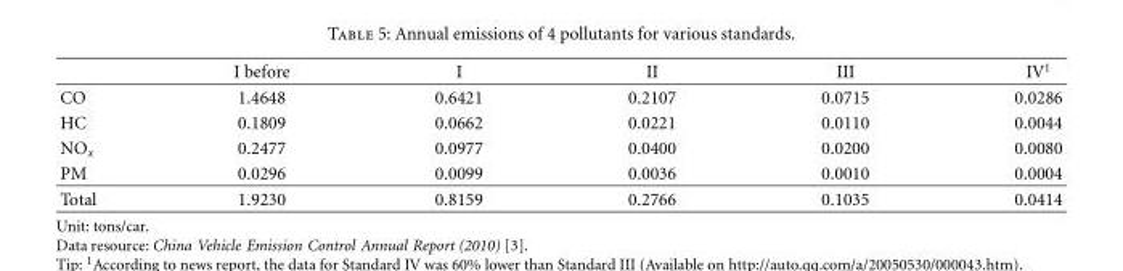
<table><thead><tr><td></td><td>I before</td><td>I</td><td>II</td><td>III</td><td>IV<sup>1</sup></td></tr></thead><tbody><tr><td>CO</td><td>1.4648</td><td>0.6421</td><td>0.2107</td><td>0.0715</td><td>0.0286</td></tr><tr><td>HC</td><td>0.1809</td><td>0.0662</td><td>0.0221</td><td>0.0110</td><td>0.0044</td></tr><tr><td>NO<sub>x</sub></td><td>0.2477</td><td>0.0977</td><td>0.0400</td><td>0.0200</td><td>0.0080</td></tr><tr><td>PM</td><td>0.0296</td><td>0.0099</td><td>0.0036</td><td>0.0010</td><td>0.0004</td></tr><tr><td>Total</td><td>1.9230</td><td>0.8159</td><td>0.2766</td><td>0.1035</td><td>0.0414</td></tr></tbody></table>